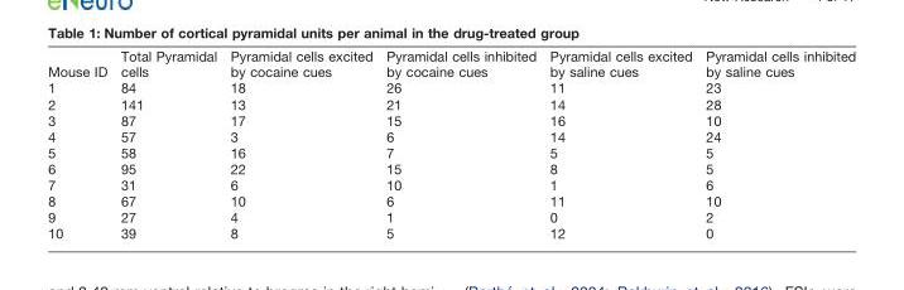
<table><thead><tr><td>Mouse ID</td><td>Total Pyramidal cells</td><td>Pyramidal cells excited by cocaine cues</td><td>Pyramidal cells inhibited by cocaine cues</td><td>Pyramidal cells excited by saline cues</td><td>Pyramidal cells inhibited by saline cues</td></tr></thead><tbody><tr><td>1</td><td>84</td><td>18</td><td>26</td><td>11</td><td>23</td></tr><tr><td>2</td><td>141</td><td>13</td><td>21</td><td>14</td><td>28</td></tr><tr><td>3</td><td>87</td><td>17</td><td>15</td><td>16</td><td>10</td></tr><tr><td>4</td><td>57</td><td>3</td><td>6</td><td>14</td><td>24</td></tr><tr><td>5</td><td>58</td><td>16</td><td>7</td><td>5</td><td>5</td></tr><tr><td>6</td><td>95</td><td>22</td><td>15</td><td>8</td><td>5</td></tr><tr><td>7</td><td>31</td><td>6</td><td>10</td><td>1</td><td>6</td></tr><tr><td>8</td><td>67</td><td>10</td><td>6</td><td>11</td><td>10</td></tr><tr><td>9</td><td>27</td><td>4</td><td>1</td><td>0</td><td>2</td></tr><tr><td>10</td><td>39</td><td>8</td><td>5</td><td>12</td><td>0</td></tr></tbody></table>